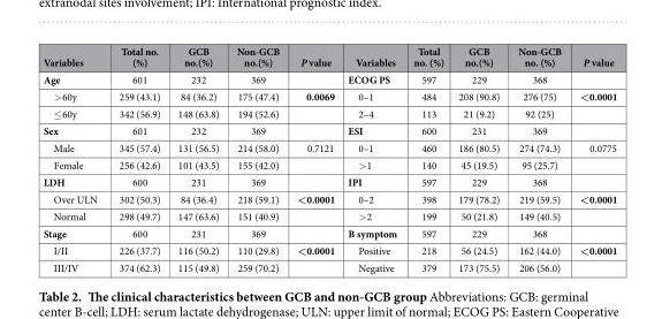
<table><thead><tr><td>Variables</td><td>Total no. (%)</td><td>GCB no.(%)</td><td>Non-GCB no.(%)</td><td>P value</td><td>Variables</td><td>Total no. (%)</td><td>GCB no.(%)</td><td>Non-GCB no. (%)</td><td>P value</td></tr></thead><tbody><tr><td>Age</td><td>601</td><td>232</td><td>369</td><td></td><td>ECOG PS</td><td>597</td><td>229</td><td>368</td><td></td></tr><tr><td>&gt; 60y</td><td>259 (43.1)</td><td>84 (36.2)</td><td>175 (47.4)</td><td>0.0069</td><td>0–1</td><td>484</td><td>208 (90.8)</td><td>276 (75)</td><td>&lt;0.0001</td></tr><tr><td>≤ 60y</td><td>342 (56.9)</td><td>148 (63.8)</td><td>194 (52.6)</td><td></td><td>2–4</td><td>113</td><td>21 (9.2)</td><td>92 (25)</td><td></td></tr><tr><td>Sex</td><td>601</td><td>232</td><td>369</td><td></td><td>ESI</td><td>600</td><td>231</td><td>369</td><td></td></tr><tr><td>Male</td><td>345 (57.4)</td><td>131 (56.5)</td><td>214 (58.0)</td><td>0.7121</td><td>0–1</td><td>460</td><td>186 (80.5)</td><td>274 (74.3)</td><td>0.0775</td></tr><tr><td>Female</td><td>256 (42.6)</td><td>101 (43.5)</td><td>155 (42.0)</td><td></td><td>&gt; 1</td><td>140</td><td>45 (19.5)</td><td>95 (25.7)</td><td></td></tr><tr><td>LDH</td><td>600</td><td>231</td><td>369</td><td></td><td>IPI</td><td>597</td><td>229</td><td>368</td><td></td></tr><tr><td>Over ULN</td><td>302 (50.3)</td><td>84 (36.4)</td><td>218 (59.1)</td><td>&lt;0.0001</td><td>0–2</td><td>398</td><td>179 (78.2)</td><td>219 (59.5)</td><td>&lt;0.0001</td></tr><tr><td>Normal</td><td>298 (49.7)</td><td>147 (63.6)</td><td>151 (40.9)</td><td></td><td>&gt; 2</td><td>199</td><td>50 (21.8)</td><td>149 (40.5)</td><td></td></tr><tr><td>Stage</td><td>600</td><td>231</td><td>369</td><td></td><td>B symptom</td><td>597</td><td>229</td><td>368</td><td></td></tr><tr><td>I/II</td><td>226 (37.7)</td><td>116 (50.2)</td><td>110 (29.8)</td><td>&lt;0.0001</td><td>Positive</td><td>218</td><td>56 (24.5)</td><td>162 (44.0)</td><td>&lt;0.0001</td></tr><tr><td>III/IV</td><td>374 (62.3)</td><td>115 (49.8)</td><td>259 (70.2)</td><td></td><td>Negative</td><td>379</td><td>173 (75.5)</td><td>206 (56.0)</td><td></td></tr></tbody></table>